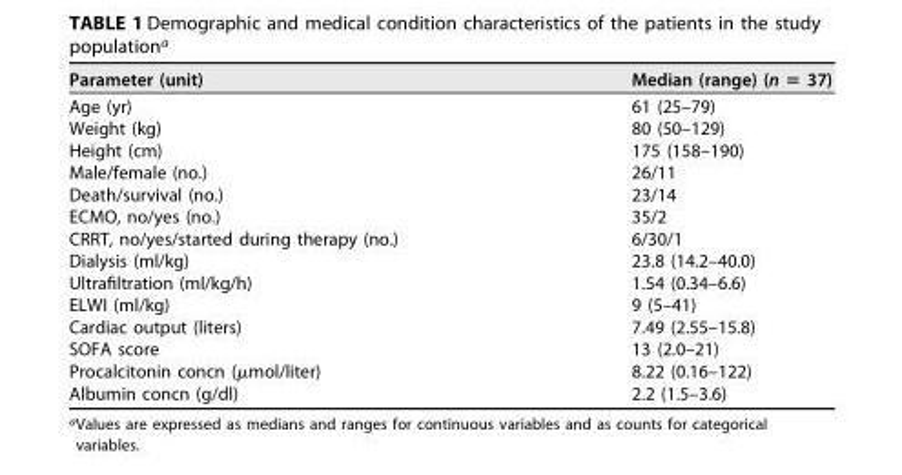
<table><thead><tr><td>Parameter (unit)</td><td>Median (range) (n = 37)</td></tr></thead><tbody><tr><td>Age (yr)</td><td>61 (25–79)</td></tr><tr><td>Weight (kg)</td><td>80 (50–129)</td></tr><tr><td>Height (cm)</td><td>175 (158–190)</td></tr><tr><td>Male/female (no.)</td><td>26/11</td></tr><tr><td>Death/survival (no.)</td><td>23/14</td></tr><tr><td>ECMO, no/yes (no.)</td><td>35/2</td></tr><tr><td>CRRT, no/yes/started during therapy (no.)</td><td>6/30/1</td></tr><tr><td>Dialysis (ml/kg)</td><td>23.8 (14.2–40.0)</td></tr><tr><td>Ultrafiltration (ml/kg/h)</td><td>1.54 (0.34–6.6)</td></tr><tr><td>ELWI (ml/kg)</td><td>9 (5–41)</td></tr><tr><td>Cardiac output (liters)</td><td>7.49 (2.55–15.8)</td></tr><tr><td>SOFA score</td><td>13 (2.0–21)</td></tr><tr><td>Procalcitonin concn (μmol/liter)</td><td>8.22 (0.16–122)</td></tr><tr><td>Albumin concn (g/dl)</td><td>2.2 (1.5–3.6)</td></tr></tbody></table>